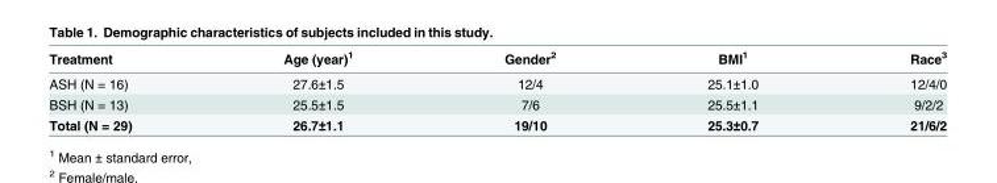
<table><thead><tr><td>Treatment</td><td>Age (year)<sup>1</sup></td><td>Gender<sup>2</sup></td><td>BMI<sup>1</sup></td><td>Race<sup>3</sup></td></tr></thead><tbody><tr><td>ASH (N = 16)</td><td>27.6±1.5</td><td>12/4</td><td>25.1±1.0</td><td>12/4/0</td></tr><tr><td>BSH (N = 13)</td><td>25.5±1.5</td><td>7/6</td><td>25.5±1.1</td><td>9/2/2</td></tr><tr><td>Total (N = 29)</td><td>26.7±1.1</td><td>19/10</td><td>25.3±0.7</td><td>21/6/2</td></tr></tbody></table>